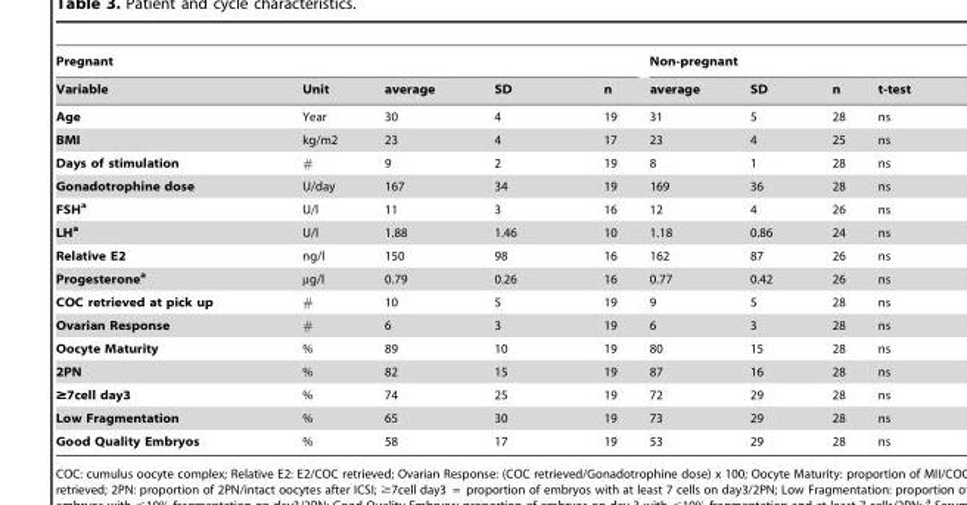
<table><thead><tr><td colspan="5">Pregnant</td><td colspan="4">Non-pregnant</td></tr><tr><td>Variable</td><td>Unit</td><td>average</td><td>SD</td><td>n</td><td>average</td><td>SD</td><td>n</td><td>t-test</td></tr></thead><tbody><tr><td>Age</td><td>Year</td><td>30</td><td>4</td><td>19</td><td>31</td><td>5</td><td>28</td><td>ns</td></tr><tr><td>BMI</td><td>kg/m2</td><td>23</td><td>4</td><td>17</td><td>23</td><td>4</td><td>25</td><td>ns</td></tr><tr><td>Days of stimulation</td><td>#</td><td>9</td><td>2</td><td>19</td><td>8</td><td>1</td><td>28</td><td>ns</td></tr><tr><td>Gonadotrophine dose</td><td>U/day</td><td>167</td><td>34</td><td>19</td><td>169</td><td>36</td><td>28</td><td>ns</td></tr><tr><td>FSH<sup>a</sup></td><td>U/l</td><td>11</td><td>3</td><td>16</td><td>12</td><td>4</td><td>26</td><td>ns</td></tr><tr><td>LH<sup>a</sup></td><td>U/l</td><td>1.88</td><td>1.46</td><td>10</td><td>1.18</td><td>0.86</td><td>24</td><td>ns</td></tr><tr><td>Relative E2</td><td>ng/l</td><td>150</td><td>98</td><td>16</td><td>162</td><td>87</td><td>26</td><td>ns</td></tr><tr><td>Progesterone<sup>a</sup></td><td>µg/l</td><td>0.79</td><td>0.26</td><td>16</td><td>0.77</td><td>0.42</td><td>26</td><td>ns</td></tr><tr><td>COC retrieved at pick up</td><td>#</td><td>10</td><td>5</td><td>19</td><td>9</td><td>5</td><td>28</td><td>ns</td></tr><tr><td>Ovarian Response</td><td>#</td><td>6</td><td>3</td><td>19</td><td>6</td><td>3</td><td>28</td><td>ns</td></tr><tr><td>Oocyte Maturity</td><td>%</td><td>89</td><td>10</td><td>19</td><td>80</td><td>15</td><td>28</td><td>ns</td></tr><tr><td>2PN</td><td>%</td><td>82</td><td>15</td><td>19</td><td>87</td><td>16</td><td>28</td><td>ns</td></tr><tr><td>≥7cell day3</td><td>%</td><td>74</td><td>25</td><td>19</td><td>72</td><td>29</td><td>28</td><td>ns</td></tr><tr><td>Low Fragmentation</td><td>%</td><td>65</td><td>30</td><td>19</td><td>73</td><td>29</td><td>28</td><td>ns</td></tr><tr><td>Good Quality Embryos</td><td>%</td><td>58</td><td>17</td><td>19</td><td>53</td><td>29</td><td>28</td><td>ns</td></tr></tbody></table>